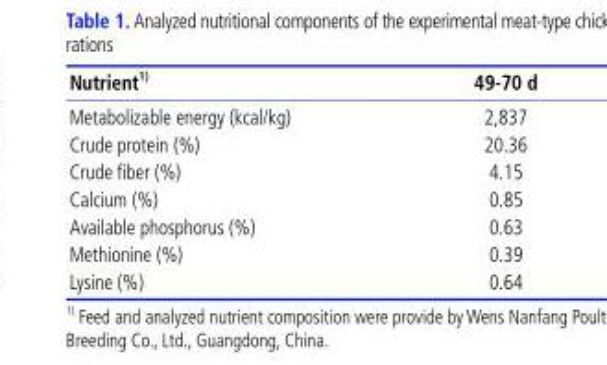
<table><thead><tr><td>Nutrient 1)</td><td>49-70 d</td></tr></thead><tbody><tr><td>Metabolizable energy (kcal/kg)</td><td>2,837</td></tr><tr><td>Crude protein (%)</td><td>20.36</td></tr><tr><td>Crude fiber (%)</td><td>4.15</td></tr><tr><td>Calcium (%)</td><td>0.85</td></tr><tr><td>Available phosphorus (%)</td><td>0.63</td></tr><tr><td>Methionine (%)</td><td>0.39</td></tr><tr><td>Lysine (%)</td><td>0.64</td></tr></tbody></table>